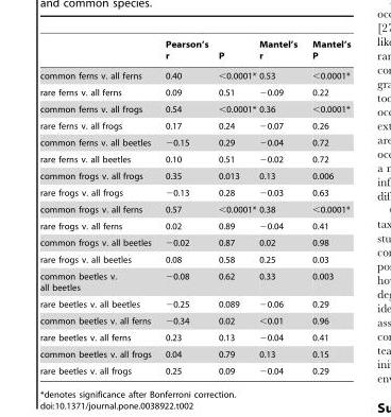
<table><thead><tr><td></td><td>Pearson’s r</td><td>P</td><td>Mantel’s r</td><td>Mantel’s P</td></tr></thead><tbody><tr><td>common ferns v. all ferns</td><td>0.40</td><td>&lt;0.0001*</td><td>0.53</td><td>&lt;0.0001*</td></tr><tr><td>rare ferns v. all ferns</td><td>0.09</td><td>0.51</td><td>−0.09</td><td>0.22</td></tr><tr><td>common ferns v. all frogs</td><td>0.54</td><td>&lt;0.0001*</td><td>0.36</td><td>&lt;0.0001*</td></tr><tr><td>rare ferns v. all frogs</td><td>0.17</td><td>0.24</td><td>−0.07</td><td>0.26</td></tr><tr><td>common ferns v. all beetles</td><td>−0.15</td><td>0.29</td><td>−0.04</td><td>0.72</td></tr><tr><td>rare ferns v. all beetles</td><td>0.10</td><td>0.51</td><td>−0.02</td><td>0.72</td></tr><tr><td>common frogs v. all frogs</td><td>0.35</td><td>0.013</td><td>0.13</td><td>0.006</td></tr><tr><td>rare frogs v. all frogs</td><td>−0.13</td><td>0.28</td><td>−0.03</td><td>0.63</td></tr><tr><td>common frogs v. all ferns</td><td>0.57</td><td>&lt;0.0001*</td><td>0.38</td><td>&lt;0.0001*</td></tr><tr><td>rare frogs v. all ferns</td><td>0.02</td><td>0.89</td><td>−0.04</td><td>0.41</td></tr><tr><td>common frogs v. all beetles</td><td>−0.02</td><td>0.87</td><td>0.02</td><td>0.98</td></tr><tr><td>rare frogs v. all beetles</td><td>0.08</td><td>0.58</td><td>0.25</td><td>0.03</td></tr><tr><td>common beetles v. all beetles</td><td>−0.08</td><td>0.62</td><td>0.33</td><td>0.003</td></tr><tr><td>rare beetles v. all beetles</td><td>−0.25</td><td>0.089</td><td>−0.06</td><td>0.29</td></tr><tr><td>common beetles v. all ferns</td><td>−0.34</td><td>0.02</td><td>&lt;0.01</td><td>0.96</td></tr><tr><td>rare beetles v. all ferns</td><td>0.23</td><td>0.13</td><td>−0.04</td><td>0.41</td></tr><tr><td>common beetles v. all frogs</td><td>0.04</td><td>0.79</td><td>0.13</td><td>0.15</td></tr><tr><td>rare beetles v. all frogs</td><td>0.25</td><td>0.09</td><td>−0.04</td><td>0.29</td></tr></tbody></table>